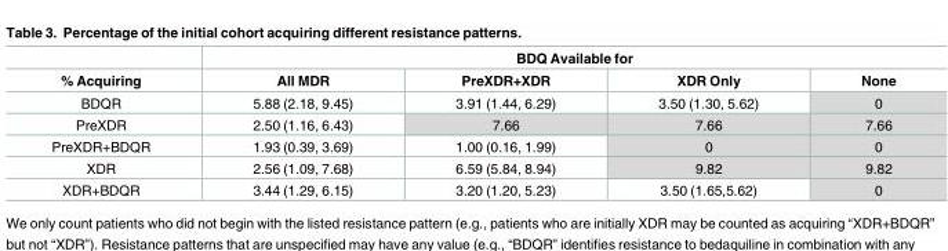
<table><thead><tr><td rowspan="2">% Acquiring</td><td colspan="4">BDQ Available for</td></tr><tr><td>All MDR</td><td>PreXDR+XDR</td><td>XDR Only</td><td>None</td></tr></thead><tbody><tr><td>BDQR</td><td>5.88 (2.18, 9.45)</td><td>3.91 (1.44, 6.29)</td><td>3.50 (1.30, 5.62)</td><td>0</td></tr><tr><td>PreXDR</td><td>2.50 (1.16, 6.43)</td><td>7.66</td><td>7.66</td><td>7.66</td></tr><tr><td>PreXDR+BDQR</td><td>1.93 (0.39, 3.69)</td><td>1.00 (0.16, 1.99)</td><td>0</td><td>0</td></tr><tr><td>XDR</td><td>2.56 (1.09, 7.68)</td><td>6.59 (5.84, 8.94)</td><td>9.82</td><td>9.82</td></tr><tr><td>XDR+BDQR</td><td>3.44 (1.29, 6.15)</td><td>3.20 (1.20, 5.23)</td><td>3.50 (1.65,5.62)</td><td>0</td></tr></tbody></table>